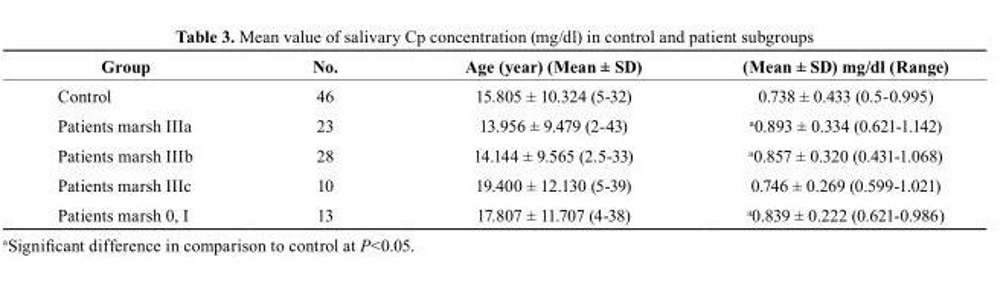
<table><thead><tr><td>Group</td><td>No.</td><td>Age (year) (Mean ± sD)</td><td>(Mean ± sD) mg/dl (range)</td></tr></thead><tbody><tr><td>Control</td><td>46</td><td>15.805 ± 10.324 (5-32)</td><td>0.738 ± 0.433 (0.5-0.995)</td></tr><tr><td>Patients marsh IIIa</td><td>23</td><td>13.956 ± 9.479 (2-43)</td><td>a0.893 ± 0.334 (0.621-1.142)</td></tr><tr><td>Patients marsh IIIb</td><td>28</td><td>14.144 ± 9.565 (2.5-33)</td><td>a0.857 ± 0.320 (0.431-1.068)</td></tr><tr><td>Patients marsh IIIc</td><td>10</td><td>19.400 ± 12.130 (5-39)</td><td>0.746 ± 0.269 (0.599-1.021)</td></tr><tr><td>Patients marsh 0, I</td><td>13</td><td>17.807 ± 11.707 (4-38)</td><td>a0.839 ± 0.222 (0.621-0.986)</td></tr></tbody></table>